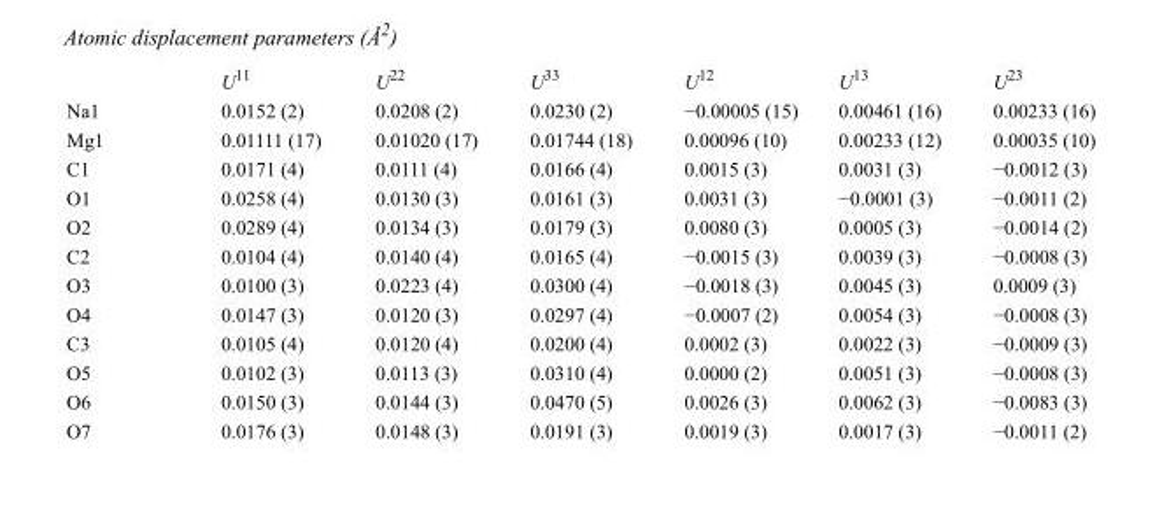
<table><thead><tr><td></td><td>U<sup>11</sup></td><td>U<sup>22</sup></td><td>U<sup>33</sup></td><td>U<sup>12</sup></td><td>U<sup>13</sup></td><td>U<sup>23</sup></td></tr></thead><tbody><tr><td>Na1</td><td>0.0152 (2)</td><td>0.0208 (2)</td><td>0.0230 (2)</td><td>−0.00005 (15)</td><td>0.00461 (16)</td><td>0.00233 (16)</td></tr><tr><td>Mg1</td><td>0.01111 (17)</td><td>0.01020 (17)</td><td>0.01744 (18)</td><td>0.00096 (10)</td><td>0.00233 (12)</td><td>0.00035 (10)</td></tr><tr><td>C1</td><td>0.0171 (4)</td><td>0.0111 (4)</td><td>0.0166 (4)</td><td>0.0015 (3)</td><td>0.0031 (3)</td><td>−0.0012 (3)</td></tr><tr><td>O1</td><td>0.0258 (4)</td><td>0.0130 (3)</td><td>0.0161 (3)</td><td>0.0031 (3)</td><td>−0.0001 (3)</td><td>−0.0011 (2)</td></tr><tr><td>O2</td><td>0.0289 (4)</td><td>0.0134 (3)</td><td>0.0179 (3)</td><td>0.0080 (3)</td><td>0.0005 (3)</td><td>−0.0014 (2)</td></tr><tr><td>C2</td><td>0.0104 (4)</td><td>0.0140 (4)</td><td>0.0165 (4)</td><td>−0.0015 (3)</td><td>0.0039 (3)</td><td>−0.0008 (3)</td></tr><tr><td>O3</td><td>0.0100 (3)</td><td>0.0223 (4)</td><td>0.0300 (4)</td><td>−0.0018 (3)</td><td>0.0045 (3)</td><td>0.0009 (3)</td></tr><tr><td>O4</td><td>0.0147 (3)</td><td>0.0120 (3)</td><td>0.0297 (4)</td><td>−0.0007 (2)</td><td>0.0054 (3)</td><td>−0.0008 (3)</td></tr><tr><td>C3</td><td>0.0105 (4)</td><td>0.0120 (4)</td><td>0.0200 (4)</td><td>0.0002 (3)</td><td>0.0022 (3)</td><td>−0.0009 (3)</td></tr><tr><td>O5</td><td>0.0102 (3)</td><td>0.0113 (3)</td><td>0.0310 (4)</td><td>0.0000 (2)</td><td>0.0051 (3)</td><td>−0.0008 (3)</td></tr><tr><td>O6</td><td>0.0150 (3)</td><td>0.0144 (3)</td><td>0.0470 (5)</td><td>0.0026 (3)</td><td>0.0062 (3)</td><td>−0.0083 (3)</td></tr><tr><td>O7</td><td>0.0176 (3)</td><td>0.0148 (3)</td><td>0.0191 (3)</td><td>0.0019 (3)</td><td>0.0017 (3)</td><td>−0.0011 (2)</td></tr></tbody></table>